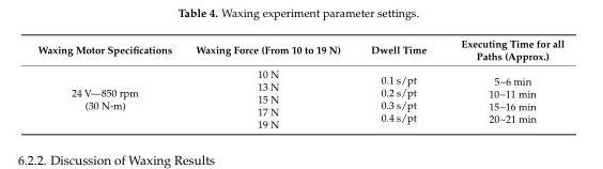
<table><thead><tr><td>Waxing Motor Specifications</td><td>Waxing Force (From 10 to 19 N)</td><td>Dwell Time</td><td>Executing Time for all Paths (Approx.)</td></tr></thead><tbody><tr><td rowspan="5">24 V—850 rpm (30 N-m)</td><td>10 N</td><td rowspan="5">0.1 s/pt 0.2 s/pt 0.3 s/pt 0.4 s/pt</td><td rowspan="5">5~6 min 10~11 min 15~16 min 20~21 min</td></tr><tr><td>13 N</td></tr><tr><td>15 N</td></tr><tr><td>17 N</td></tr><tr><td>19 N</td></tr></tbody></table>